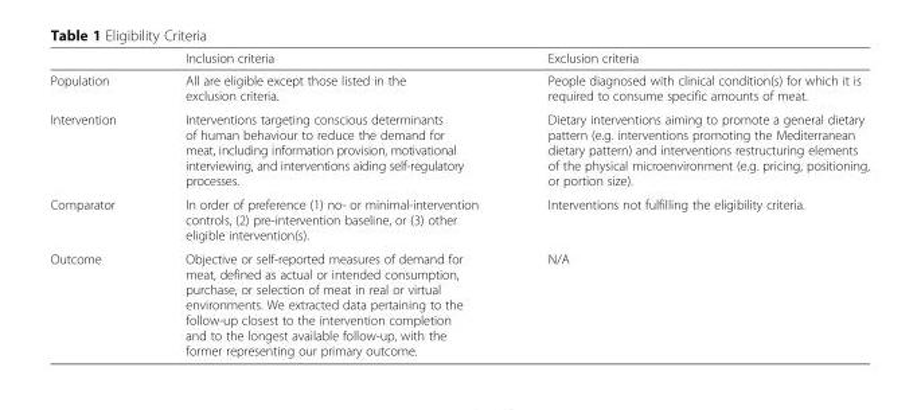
<table><thead><tr><td></td><td>Inclusion criteria</td><td>Exclusion criteria</td></tr></thead><tbody><tr><td>Population</td><td>All are eligible except those listed in the exclusion criteria.</td><td>People diagnosed with clinical condition(s) for which it is required to consume specific amounts of meat.</td></tr><tr><td>Intervention</td><td>Interventions targeting conscious determinants of human behaviour to reduce the demand for meat, including information provision, motivational interviewing, and interventions aiding self-regulatory processes.</td><td>Dietary interventions aiming to promote a general dietary pattern (e.g. interventions promoting the Mediterranean dietary pattern) and interventions restructuring elements of the physical microenvironment (e.g. pricing, positioning, or portion size).</td></tr><tr><td>Comparator</td><td>In order of preference (1) no- or minimal-intervention controls, (2) pre-intervention baseline, or (3) other eligible intervention(s).</td><td>Interventions not fulfilling the eligibility criteria.</td></tr><tr><td>Outcome</td><td>Objective or self-reported measures of demand for meat, defined as actual or intended consumption, purchase, or selection of meat in real or virtual environments. We extracted data pertaining to the follow-up closest to the intervention completion and to the longest available follow-up, with the former representing our primary outcome.</td><td>N/A</td></tr></tbody></table>